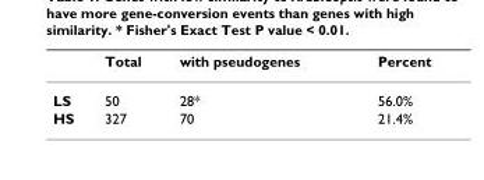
<table><thead><tr><td></td><td>Total</td><td>with pseudogenes</td><td>Percent</td></tr></thead><tbody><tr><td>LS</td><td>50</td><td>28*</td><td>56.0%</td></tr><tr><td>HS</td><td>327</td><td>70</td><td>21.4%</td></tr></tbody></table>